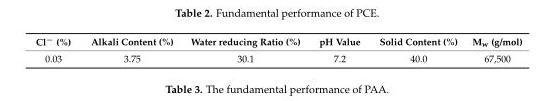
<table><thead><tr><td>Cl<sup>−</sup> (%)</td><td>Alkali Content (%)</td><td>Water reducing Ratio (%)</td><td>pH Value</td><td>Solid Content (%)</td><td>M<sub>w</sub> (g/mol)</td></tr></thead><tbody><tr><td>0.03</td><td>3.75</td><td>30.1</td><td>7.2</td><td>40.0</td><td>67,500</td></tr></tbody></table>